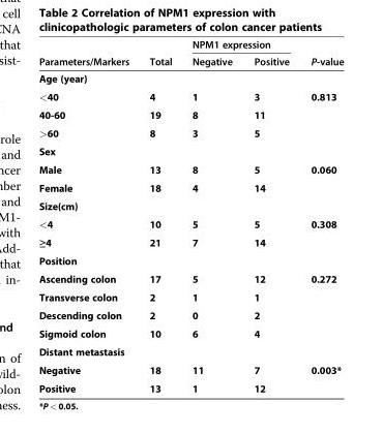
<table><thead><tr><td rowspan="2">Parameters/Markers</td><td rowspan="2">Total</td><td colspan="2">NPM1 expression</td><td rowspan="2">P-value</td></tr><tr><td>Negative</td><td>Positive</td></tr></thead><tbody><tr><td colspan="5">Age (year)</td></tr><tr><td>&lt;40</td><td>4</td><td>1</td><td>3</td><td>0.813</td></tr><tr><td>40-60</td><td>19</td><td>8</td><td>11</td><td></td></tr><tr><td>&gt;60</td><td>8</td><td>3</td><td>5</td><td></td></tr><tr><td colspan="5">Sex</td></tr><tr><td>Male</td><td>13</td><td>8</td><td>5</td><td>0.060</td></tr><tr><td>Female</td><td>18</td><td>4</td><td>14</td><td></td></tr><tr><td colspan="5">Size(cm)</td></tr><tr><td>&lt;4</td><td>10</td><td>5</td><td>5</td><td>0.308</td></tr><tr><td>≥4</td><td>21</td><td>7</td><td>14</td><td></td></tr><tr><td colspan="5">Position</td></tr><tr><td>Ascending colon</td><td>17</td><td>5</td><td>12</td><td>0.272</td></tr><tr><td>Transverse colon</td><td>2</td><td>1</td><td>1</td><td></td></tr><tr><td>Descending colon</td><td>2</td><td>0</td><td>2</td><td></td></tr><tr><td>Sigmoid colon</td><td>10</td><td>6</td><td>4</td><td></td></tr><tr><td colspan="5">Distant metastasis</td></tr><tr><td>Negative</td><td>18</td><td>11</td><td>7</td><td>0.003*</td></tr><tr><td>Positive</td><td>13</td><td>1</td><td>12</td><td></td></tr></tbody></table>